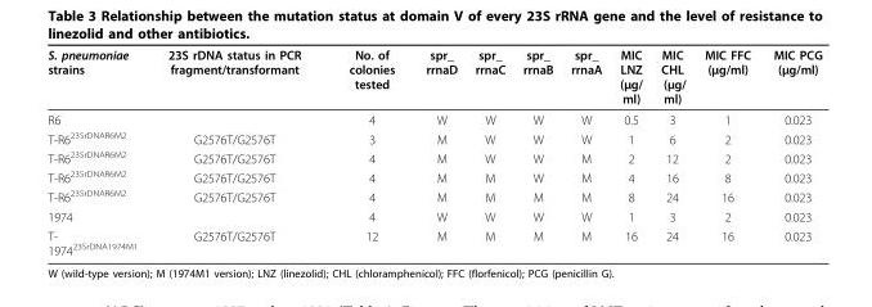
<table><thead><tr><td>S. pneumoniae strains</td><td>23S rDNA status in PCR fragment/transformant</td><td>No. of colonies tested</td><td>spr_ rrnaD</td><td>spr_ rrnaC</td><td>spr_ rrnaB</td><td>spr_ rrnaA</td><td>MIC LNZ (μg/ ml)</td><td>MIC CHL (μg/ ml)</td><td>MIC FFC (μg/ml)</td><td>MIC PCG (μg/ml)</td></tr></thead><tbody><tr><td>R6</td><td></td><td>4</td><td>W</td><td>W</td><td>W</td><td>W</td><td>0.5</td><td>3</td><td>1</td><td>0.023</td></tr><tr><td>T-R6<sup>23SrDNAR6M2</sup></td><td>G2576T/G2576T</td><td>3</td><td>M</td><td>W</td><td>W</td><td>W</td><td>1</td><td>6</td><td>2</td><td>0.023</td></tr><tr><td>T-R6<sup>23SrDNAR6M2</sup></td><td>G2576T/G2576T</td><td>4</td><td>M</td><td>W</td><td>W</td><td>M</td><td>2</td><td>12</td><td>2</td><td>0.023</td></tr><tr><td>T-R6<sup>23SrDNAR6M2</sup></td><td>G2576T/G2576T</td><td>4</td><td>M</td><td>M</td><td>W</td><td>M</td><td>4</td><td>16</td><td>8</td><td>0.023</td></tr><tr><td>T-R6<sup>23SrDNAR6M2</sup></td><td>G2576T/G2576T</td><td>4</td><td>M</td><td>M</td><td>M</td><td>M</td><td>8</td><td>24</td><td>16</td><td>0.023</td></tr><tr><td>1974</td><td></td><td>4</td><td>W</td><td>W</td><td>W</td><td>W</td><td>1</td><td>3</td><td>2</td><td>0.023</td></tr><tr><td>T- 1974<sup>23SrDNA1974M1</sup></td><td>G2576T/G2576T</td><td>12</td><td>M</td><td>M</td><td>M</td><td>M</td><td>16</td><td>24</td><td>16</td><td>0.023</td></tr></tbody></table>